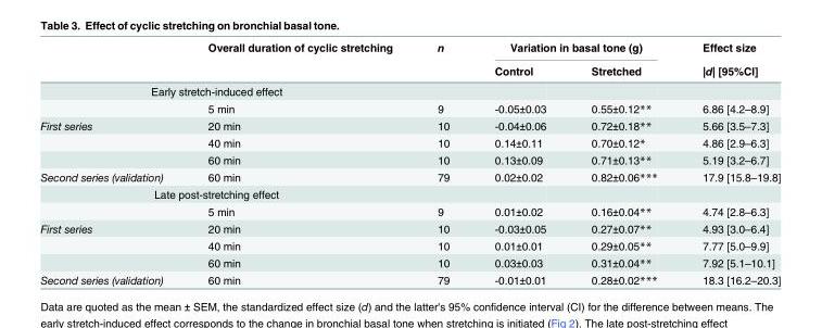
<table><thead><tr><td rowspan="2"></td><td rowspan="2">Overall duration of cyclic stretching</td><td rowspan="2">n</td><td colspan="2">Variation in basal tone (g)</td><td rowspan="2">Effect size |d| [95%CI]</td></tr><tr><td>Control</td><td>Stretched</td></tr></thead><tbody><tr><td colspan="6">Early stretch-induced effect</td></tr><tr><td></td><td>5 min</td><td>9</td><td>-0.05±0.03</td><td>0.55±0.12**</td><td>6.86 [4.2–8.9]</td></tr><tr><td rowspan="3">First series</td><td>20 min</td><td>10</td><td>-0.04±0.06</td><td>0.72±0.18**</td><td>5.66 [3.5–7.3]</td></tr><tr><td>40 min</td><td>10</td><td>0.14±0.11</td><td>0.70±0.12*</td><td>4.86 [2.9–6.3]</td></tr><tr><td>60 min</td><td>10</td><td>0.13±0.09</td><td>0.71±0.13**</td><td>5.19 [3.2–6.7]</td></tr><tr><td>Second series (validation)</td><td>60 min</td><td>79</td><td>0.02±0.02</td><td>0.82±0.06***</td><td>17.9 [15.8–19.8]</td></tr><tr><td colspan="6">Late post-stretching effect</td></tr><tr><td></td><td>5 min</td><td>9</td><td>0.01±0.02</td><td>0.16±0.04**</td><td>4.74 [2.8–6.3]</td></tr><tr><td rowspan="3">First series</td><td>20 min</td><td>10</td><td>-0.03±0.05</td><td>0.27±0.07**</td><td>4.93 [3.0–6.4]</td></tr><tr><td>40 min</td><td>10</td><td>0.01±0.01</td><td>0.29±0.05**</td><td>7.77 [5.0–9.9]</td></tr><tr><td>60 min</td><td>10</td><td>0.03±0.03</td><td>0.31±0.04**</td><td>7.92 [5.1–10.1]</td></tr><tr><td>Second series (validation)</td><td>60 min</td><td>79</td><td>-0.01±0.01</td><td>0.28±0.02***</td><td>18.3 [16.2–20.3]</td></tr></tbody></table>